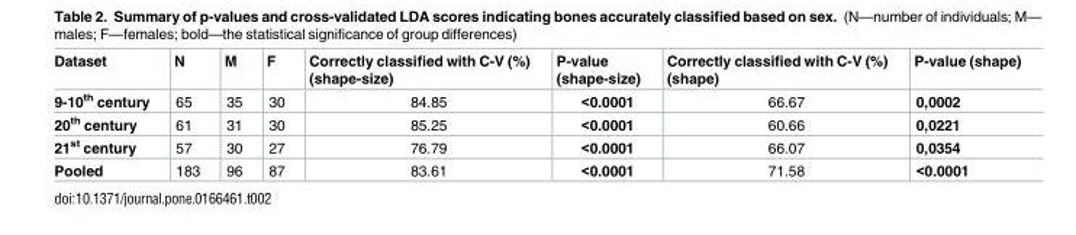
<table><thead><tr><td>Dataset</td><td>N</td><td>M</td><td>F</td><td>Correctly classified with C-V (%) (shape-size)</td><td>P-value (shape-size)</td><td>Correctly classified with C-V (%) (shape)</td><td>P-value (shape)</td></tr></thead><tbody><tr><td>9-10<sup>th</sup> century</td><td>65</td><td>35</td><td>30</td><td>84.85</td><td>&lt;0.0001</td><td>66.67</td><td>0,0002</td></tr><tr><td>20<sup>th</sup> century</td><td>61</td><td>31</td><td>30</td><td>85.25</td><td>&lt;0.0001</td><td>60.66</td><td>0,0221</td></tr><tr><td>21<sup>st</sup> century</td><td>57</td><td>30</td><td>27</td><td>76.79</td><td>&lt;0.0001</td><td>66.07</td><td>0,0354</td></tr><tr><td>Pooled</td><td>183</td><td>96</td><td>87</td><td>83.61</td><td>&lt;0.0001</td><td>71.58</td><td>&lt;0.0001</td></tr></tbody></table>